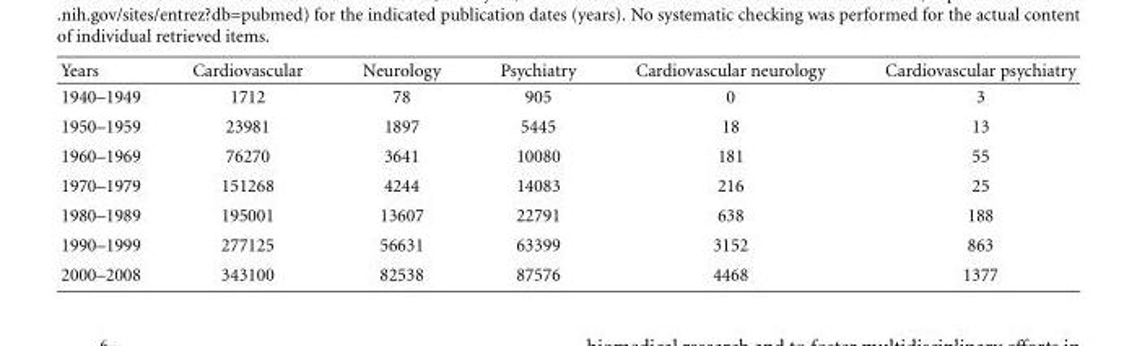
<table><thead><tr><td>Years</td><td>Cardiovascular</td><td>Neurology</td><td>Psychiatry</td><td>Cardiovascular neurology</td><td>Cardiovascular psychiatry</td></tr></thead><tbody><tr><td>1940–1949</td><td>1712</td><td>78</td><td>905</td><td>0</td><td>3</td></tr><tr><td>1950–1959</td><td>23981</td><td>1897</td><td>5445</td><td>18</td><td>13</td></tr><tr><td>1960–1969</td><td>76270</td><td>3641</td><td>10080</td><td>181</td><td>55</td></tr><tr><td>1970–1979</td><td>151268</td><td>4244</td><td>14083</td><td>216</td><td>25</td></tr><tr><td>1980–1989</td><td>195001</td><td>13607</td><td>22791</td><td>638</td><td>188</td></tr><tr><td>1990–1999</td><td>277125</td><td>56631</td><td>63399</td><td>3152</td><td>863</td></tr><tr><td>2000–2008</td><td>343100</td><td>82538</td><td>87576</td><td>4468</td><td>1377</td></tr></tbody></table>